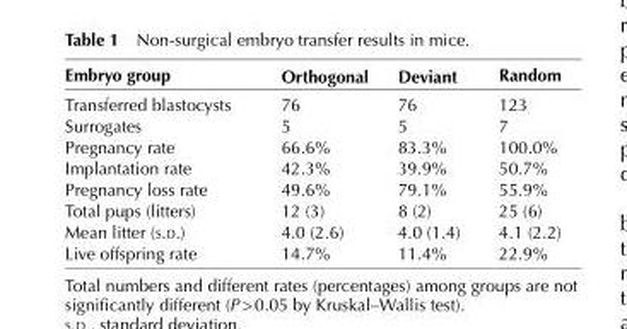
<table><thead><tr><td>Embryo group</td><td>Orthogonal</td><td>Deviant</td><td>Random</td></tr></thead><tbody><tr><td>Transferred blastocysts</td><td>76</td><td>76</td><td>123</td></tr><tr><td>Surrogates</td><td>5</td><td>5</td><td>7</td></tr><tr><td>Pregnancy rate</td><td>66.6%</td><td>83.3%</td><td>100.0%</td></tr><tr><td>Implantation rate</td><td>42.3%</td><td>39.9%</td><td>50.7%</td></tr><tr><td>Pregnancy loss rate</td><td>49.6%</td><td>79.1%</td><td>55.9%</td></tr><tr><td>Total pups (litters)</td><td>12 (3)</td><td>8 (2)</td><td>25 (6)</td></tr><tr><td>Mean litter (s.d.)</td><td>4.0 (2.6)</td><td>4.0 (1.4)</td><td>4.1 (2.2)</td></tr><tr><td>Live offspring rate</td><td>14.7%</td><td>11.4%</td><td>22.9%</td></tr></tbody></table>